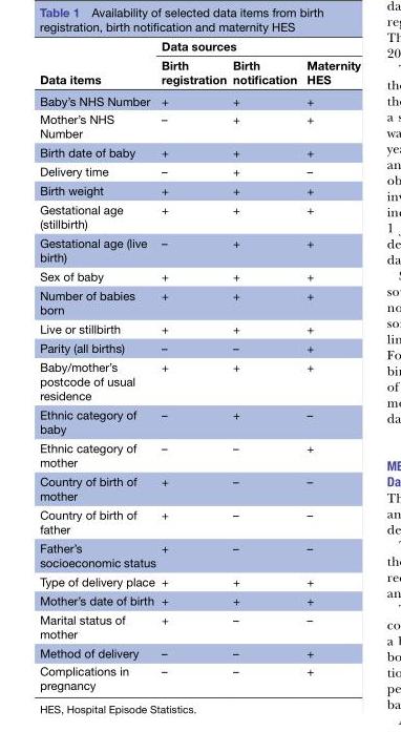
<table><thead><tr><td rowspan="2">Data items</td><td colspan="3">Data sources</td></tr><tr><td>Birth registration</td><td>Birth notification</td><td>Maternity HES</td></tr></thead><tbody><tr><td>Baby’s NHS Number</td><td>+</td><td>+</td><td>+</td></tr><tr><td>Mother’s NHS Number</td><td>–</td><td>+</td><td>+</td></tr><tr><td>Birth date of baby</td><td>+</td><td>+</td><td>+</td></tr><tr><td>Delivery time</td><td>–</td><td>+</td><td>–</td></tr><tr><td>Birth weight</td><td>+</td><td>+</td><td>+</td></tr><tr><td>Gestational age (stillbirth)</td><td>+</td><td>+</td><td>+</td></tr><tr><td>Gestational age (live birth)</td><td>–</td><td>+</td><td>+</td></tr><tr><td>Sex of baby</td><td>+</td><td>+</td><td>+</td></tr><tr><td>Number of babies born</td><td>+</td><td>+</td><td>+</td></tr><tr><td>Live or stillbirth</td><td>+</td><td>+</td><td>+</td></tr><tr><td>Parity (all births)</td><td>–</td><td>–</td><td>+</td></tr><tr><td>Baby/mother’s postcode of usual residence</td><td>+</td><td>+</td><td>+</td></tr><tr><td>Ethnic category of baby</td><td>–</td><td>+</td><td>–</td></tr><tr><td>Ethnic category of mother</td><td>–</td><td>–</td><td>+</td></tr><tr><td>Country of birth of mother</td><td>+</td><td>–</td><td>–</td></tr><tr><td>Country of birth of father</td><td>+</td><td>–</td><td>–</td></tr><tr><td>Father’s socioeconomic status</td><td>+</td><td>–</td><td>–</td></tr><tr><td>Type of delivery place</td><td>+</td><td>+</td><td>+</td></tr><tr><td>Mother’s date of birth</td><td>+</td><td>+</td><td>+</td></tr><tr><td>Marital status of mother</td><td>+</td><td>–</td><td>–</td></tr><tr><td>Method of delivery</td><td>–</td><td>–</td><td>+</td></tr><tr><td>Complications in pregnancy</td><td>–</td><td>–</td><td>+</td></tr></tbody></table>